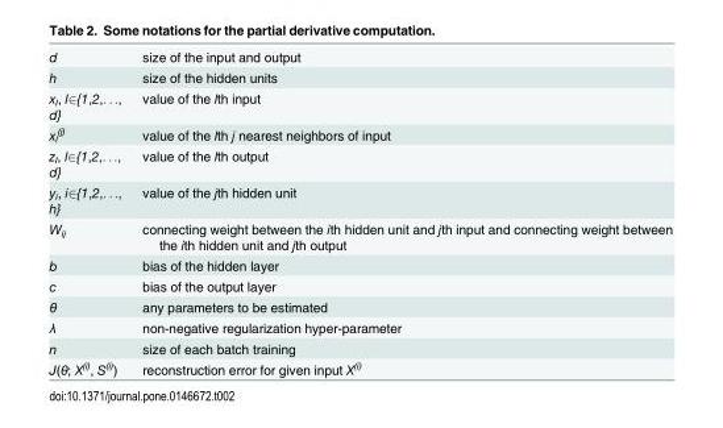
<table><tbody><tr><td>d</td><td>size of the input and output</td></tr><tr><td>h</td><td>size of the hidden units</td></tr><tr><td>xl, l2{1,2,. . ., d}</td><td>value of the lth input</td></tr><tr><td>x<sub>l</sub> <sup>(j)</sup></td><td>value of the lth j nearest neighbors of input</td></tr><tr><td>zl, l2{1,2,. . ., d}</td><td>value of the lth output</td></tr><tr><td>yi, i2{1,2,. . ., h}</td><td>value of the jth hidden unit</td></tr><tr><td>W<sub>ij</sub></td><td>connecting weight between the ith hidden unit and jth input and connecting weight between the ith hidden unit and jth output</td></tr><tr><td>b</td><td>bias of the hidden layer</td></tr><tr><td>c</td><td>bias of the output layer</td></tr><tr><td>θ</td><td>any parameters to be estimated</td></tr><tr><td>λ</td><td>non-negative regularization hyper-parameter</td></tr><tr><td>n</td><td>size of each batch training</td></tr><tr><td>J(θ; X<sup>(i)</sup>, S<sup>(i)</sup>)</td><td>reconstruction error for given input X<sup>(i)</sup></td></tr></tbody></table>